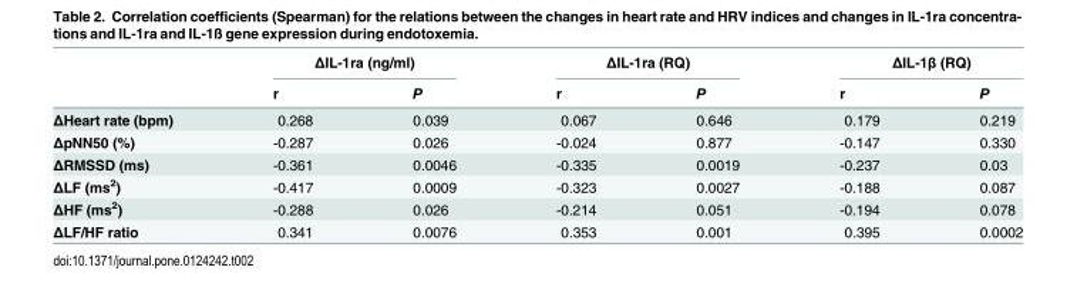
<table><thead><tr><td rowspan="2"></td><td colspan="2">ΔIL-1ra (ng/ml)</td><td colspan="2">ΔIL-1ra (RQ)</td><td colspan="2">ΔIL-1β (RQ)</td></tr><tr><td>r</td><td>P</td><td>r</td><td>P</td><td>r</td><td>P</td></tr></thead><tbody><tr><td>ΔHeart rate (bpm)</td><td>0.268</td><td>0.039</td><td>0.067</td><td>0.646</td><td>0.179</td><td>0.219</td></tr><tr><td>ΔpNN50 (%)</td><td>-0.287</td><td>0.026</td><td>-0.024</td><td>0.877</td><td>-0.147</td><td>0.330</td></tr><tr><td>ΔRMSSD (ms)</td><td>-0.361</td><td>0.0046</td><td>-0.335</td><td>0.0019</td><td>-0.237</td><td>0.03</td></tr><tr><td>ΔLF (ms<sup>2</sup>)</td><td>-0.417</td><td>0.0009</td><td>-0.323</td><td>0.0027</td><td>-0.188</td><td>0.087</td></tr><tr><td>ΔHF (ms<sup>2</sup>)</td><td>-0.288</td><td>0.026</td><td>-0.214</td><td>0.051</td><td>-0.194</td><td>0.078</td></tr><tr><td>ΔLF/HF ratio</td><td>0.341</td><td>0.0076</td><td>0.353</td><td>0.001</td><td>0.395</td><td>0.0002</td></tr></tbody></table>